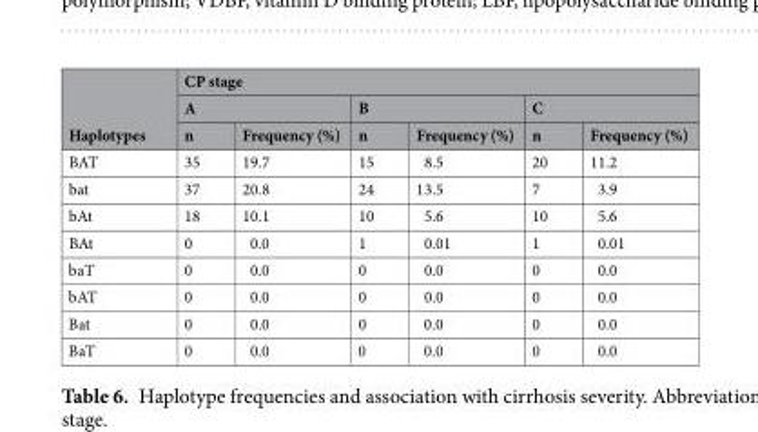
<table><thead><tr><td rowspan="3">Haplotypes</td><td colspan="6">CP stage</td></tr><tr><td colspan="2">A</td><td colspan="2">B</td><td colspan="2">C</td></tr><tr><td>n</td><td>Frequency (%)</td><td>n</td><td>Frequency (%)</td><td>n</td><td>Frequency (%)</td></tr></thead><tbody><tr><td>BAT</td><td>35</td><td>19.7</td><td>15</td><td>8.5</td><td>20</td><td>11.2</td></tr><tr><td>bat</td><td>37</td><td>20.8</td><td>24</td><td>13.5</td><td>7</td><td>3.9</td></tr><tr><td>bAt</td><td>18</td><td>10.1</td><td>10</td><td>5.6</td><td>10</td><td>5.6</td></tr><tr><td>BAt</td><td>0</td><td>0.0</td><td>1</td><td>0.01</td><td>1</td><td>0.01</td></tr><tr><td>baT</td><td>0</td><td>0.0</td><td>0</td><td>0.0</td><td>0</td><td>0.0</td></tr><tr><td>bAT</td><td>0</td><td>0.0</td><td>0</td><td>0.0</td><td>0</td><td>0.0</td></tr><tr><td>Bat</td><td>0</td><td>0.0</td><td>0</td><td>0.0</td><td>0</td><td>0.0</td></tr><tr><td>BaT</td><td>0</td><td>0.0</td><td>0</td><td>0.0</td><td>0</td><td>0.0</td></tr></tbody></table>